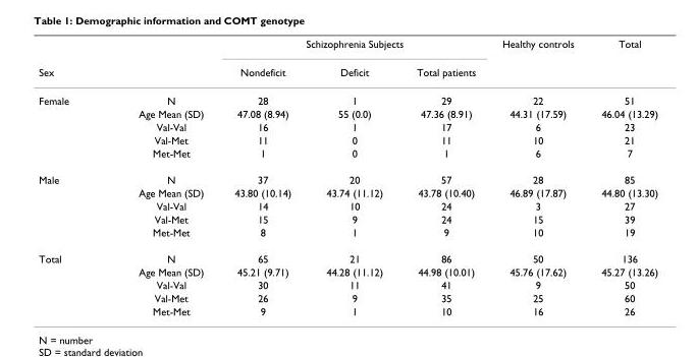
<table><thead><tr><td rowspan="2">Sex</td><td rowspan="2"></td><td colspan="3">Schizophrenia Subjects</td><td rowspan="2">Healthy controls</td><td rowspan="2">Total</td></tr><tr><td>Nondeficit</td><td>Deficit</td><td>Total patients</td></tr></thead><tbody><tr><td rowspan="5">Female</td><td>N</td><td>28</td><td>1</td><td>29</td><td>22</td><td>51</td></tr><tr><td>Age Mean (SD)</td><td>47.08 (8.94)</td><td>55 (0.0)</td><td>47.36 (8.91)</td><td>44.31 (17.59)</td><td>46.04 (13.29)</td></tr><tr><td>Val-Val</td><td>16</td><td>1</td><td>17</td><td>6</td><td>23</td></tr><tr><td>Val-Met</td><td>11</td><td>0</td><td>11</td><td>10</td><td>21</td></tr><tr><td>Met-Met</td><td>1</td><td>0</td><td>1</td><td>6</td><td>7</td></tr><tr><td rowspan="5">Male</td><td>N</td><td>37</td><td>20</td><td>57</td><td>28</td><td>85</td></tr><tr><td>Age Mean (SD)</td><td>43.80 (10.14)</td><td>43.74 (11.12)</td><td>43.78 (10.40)</td><td>46.89 (17.87)</td><td>44.80 (13.30)</td></tr><tr><td>Val-Val</td><td>14</td><td>10</td><td>24</td><td>3</td><td>27</td></tr><tr><td>Val-Met</td><td>15</td><td>9</td><td>24</td><td>15</td><td>39</td></tr><tr><td>Met-Met</td><td>8</td><td>1</td><td>9</td><td>10</td><td>19</td></tr><tr><td rowspan="5">Total</td><td>N</td><td>65</td><td>21</td><td>86</td><td>50</td><td>136</td></tr><tr><td>Age Mean (SD)</td><td>45.21 (9.71)</td><td>44.28 (11.12)</td><td>44.98 (10.01)</td><td>45.76 (17.62)</td><td>45.27 (13.26)</td></tr><tr><td>Val-Val</td><td>30</td><td>11</td><td>41</td><td>9</td><td>50</td></tr><tr><td>Val-Met</td><td>26</td><td>9</td><td>35</td><td>25</td><td>60</td></tr><tr><td>Met-Met</td><td>9</td><td>1</td><td>10</td><td>16</td><td>26</td></tr></tbody></table>